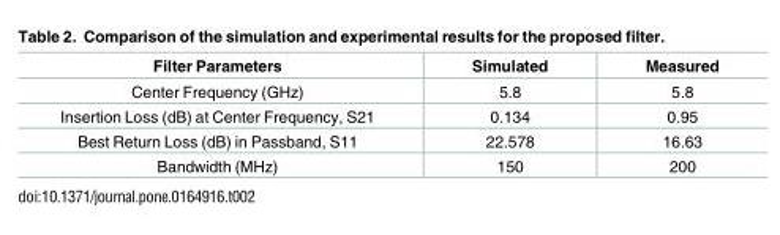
<table><thead><tr><td>Filter Parameters</td><td>Simulated</td><td>Measured</td></tr></thead><tbody><tr><td>Center Frequency (GHz)</td><td>5.8</td><td>5.8</td></tr><tr><td>Insertion Loss (dB) at Center Frequency, S21</td><td>0.134</td><td>0.95</td></tr><tr><td>Best Return Loss (dB) in Passband, S11</td><td>22.578</td><td>16.63</td></tr><tr><td>Bandwidth (MHz)</td><td>150</td><td>200</td></tr></tbody></table>